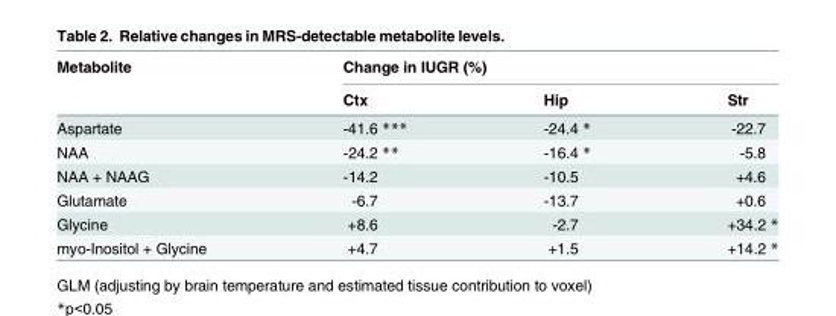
<table><thead><tr><td rowspan="2">Metabolite</td><td colspan="3">Change in IUGR (%)</td></tr><tr><td>Ctx</td><td>Hip</td><td>Str</td></tr></thead><tbody><tr><td>Aspartate</td><td>-41.6 ***</td><td>-24.4 *</td><td>-22.7</td></tr><tr><td>NAA</td><td>-24.2 **</td><td>-16.4 *</td><td>-5.8</td></tr><tr><td>NAA + NAAG</td><td>-14.2</td><td>-10.5</td><td>+4.6</td></tr><tr><td>Glutamate</td><td>-6.7</td><td>-13.7</td><td>+0.6</td></tr><tr><td>Glycine</td><td>+8.6</td><td>-2.7</td><td>+34.2 *</td></tr><tr><td>myo-Inositol + Glycine</td><td>+4.7</td><td>+1.5</td><td>+14.2 *</td></tr></tbody></table>